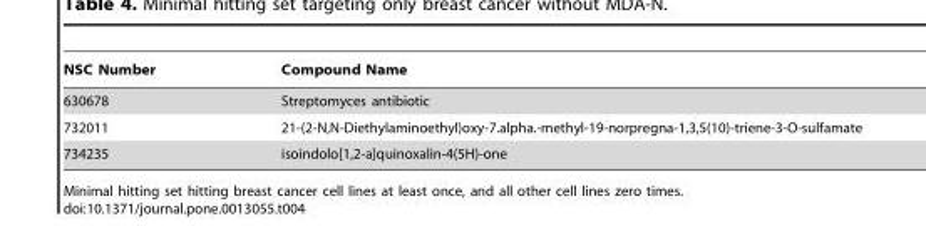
<table><thead><tr><td>NSC Number</td><td>Compound Name</td></tr></thead><tbody><tr><td>630678</td><td>Streptomyces antibiotic</td></tr><tr><td>732011</td><td>21-(2-N,N-Diethylaminoethyl)oxy-7.alpha.-methyl-19-norpregna-1,3,5(10)-triene-3-O-sulfamate</td></tr><tr><td>734235</td><td>isoindolo[1,2-a]quinoxalin-4(5H)-one</td></tr></tbody></table>